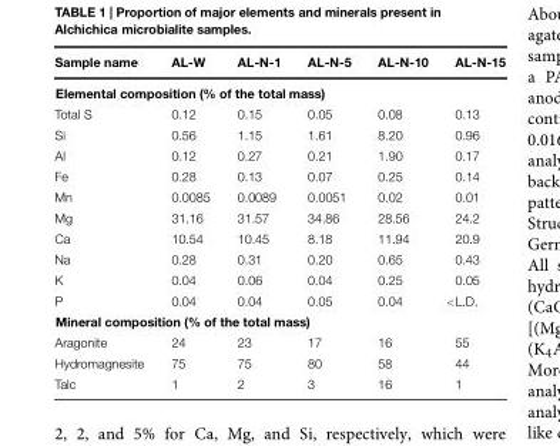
<table><thead><tr><td>Sample name</td><td>AL-W</td><td>AL-N-1</td><td>AL-N-5</td><td>AL-N-10</td><td>AL-N-15</td></tr></thead><tbody><tr><td colspan="6">Elemental composition (% of the total mass)</td></tr><tr><td>Total S</td><td>0.12</td><td>0.15</td><td>0.05</td><td>0.08</td><td>0.13</td></tr><tr><td>Si</td><td>0.56</td><td>1.15</td><td>1.61</td><td>8.20</td><td>0.96</td></tr><tr><td>Al</td><td>0.12</td><td>0.27</td><td>0.21</td><td>1.90</td><td>0.17</td></tr><tr><td>Fe</td><td>0.28</td><td>0.13</td><td>0.07</td><td>0.25</td><td>0.14</td></tr><tr><td>Mn</td><td>0.0085</td><td>0.0089</td><td>0.0051</td><td>0.02</td><td>0.01</td></tr><tr><td>Mg</td><td>31.16</td><td>31.57</td><td>34.86</td><td>28.56</td><td>24.2</td></tr><tr><td>Ca</td><td>10.54</td><td>10.45</td><td>8.18</td><td>11.94</td><td>20.9</td></tr><tr><td>Na</td><td>0.28</td><td>0.31</td><td>0.20</td><td>0.65</td><td>0.43</td></tr><tr><td>K</td><td>0.04</td><td>0.06</td><td>0.04</td><td>0.25</td><td>0.05</td></tr><tr><td>P</td><td>0.04</td><td>0.04</td><td>0.05</td><td>0.04</td><td>&lt;L.D.</td></tr><tr><td colspan="6">Mineral composition (% of the total mass)</td></tr><tr><td>Aragonite</td><td>24</td><td>23</td><td>17</td><td>16</td><td>55</td></tr><tr><td>Hydromagnesite</td><td>75</td><td>75</td><td>80</td><td>58</td><td>44</td></tr><tr><td>Talc</td><td>1</td><td>2</td><td>3</td><td>16</td><td>1</td></tr></tbody></table>